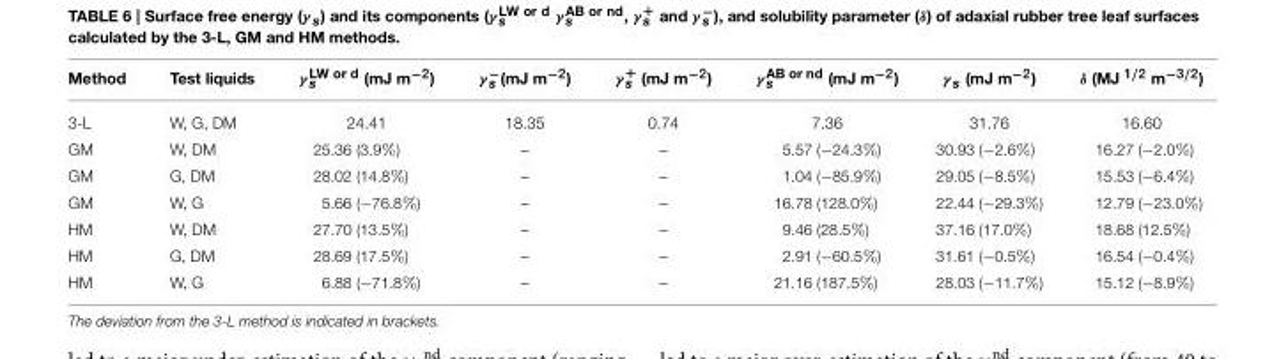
<table><thead><tr><td>Method</td><td>Test liquids</td><td>γ <sup>LW or d</sup> <sub>s</sub> (mJ m<sup>−2</sup>)</td><td>γ <sup>−</sup><sub>s</sub> (mJ m<sup>−2</sup>)</td><td>γ <sup>+</sup> <sub>s</sub> (mJ m<sup>−2</sup>)</td><td>γ <sup>AB or nd</sup> <sub>s</sub> (mJ m<sup>−2</sup>)</td><td>γ <sub>s</sub> (mJ m<sup>−2</sup>)</td><td>δ (MJ <sup>1/2</sup> m<sup>−3/2</sup>)</td></tr></thead><tbody><tr><td>3-L</td><td>W, G, DM</td><td>24.41</td><td>18.35</td><td>0.74</td><td>7.36</td><td>31.76</td><td>16.60</td></tr><tr><td>GM</td><td>W, DM</td><td>25.36 (3.9%)</td><td>–</td><td>–</td><td>5.57 (−24.3%)</td><td>30.93 (−2.6%)</td><td>16.27 (−2.0%)</td></tr><tr><td>GM</td><td>G, DM</td><td>28.02 (14.8%)</td><td>–</td><td>–</td><td>1.04 (−85.9%)</td><td>29.05 (−8.5%)</td><td>15.53 (−6.4%)</td></tr><tr><td>GM</td><td>W, G</td><td>5.66 (−76.8%)</td><td>–</td><td>–</td><td>16.78 (128.0%)</td><td>22.44 (−29.3%)</td><td>12.79 (−23.0%)</td></tr><tr><td>HM</td><td>W, DM</td><td>27.70 (13.5%)</td><td>–</td><td>–</td><td>9.46 (28.5%)</td><td>37.16 (17.0%)</td><td>18.68 (12.5%)</td></tr><tr><td>HM</td><td>G, DM</td><td>28.69 (17.5%)</td><td>–</td><td>–</td><td>2.91 (−60.5%)</td><td>31.61 (−0.5%)</td><td>16.54 (−0.4%)</td></tr><tr><td>HM</td><td>W, G</td><td>6.88 (−71.8%)</td><td>–</td><td>–</td><td>21.16 (187.5%)</td><td>28.03 (−11.7%)</td><td>15.12 (−8.9%)</td></tr></tbody></table>